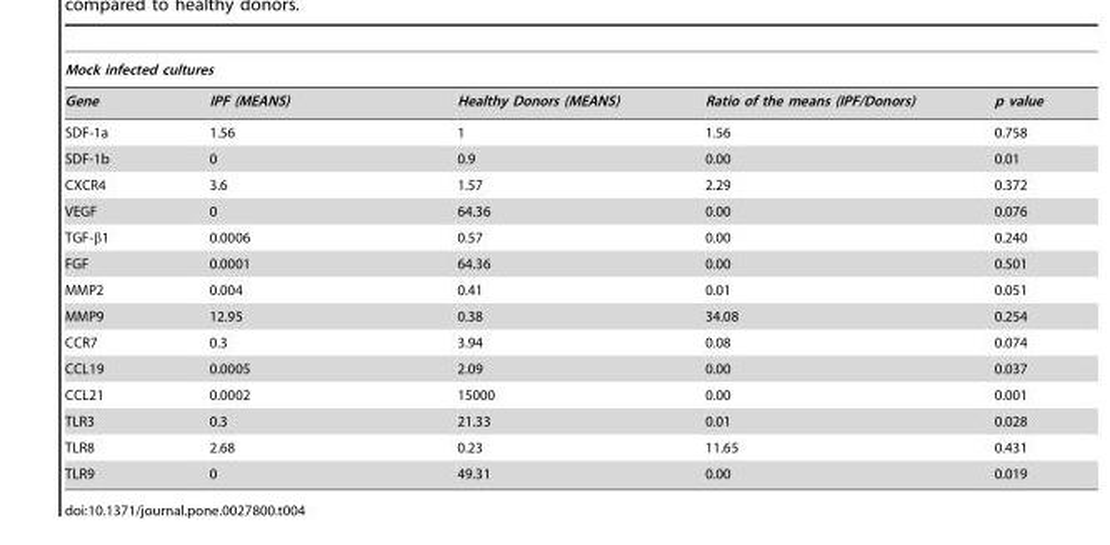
<table><thead><tr><td colspan="5">Mock infected cultures</td></tr><tr><td>Gene</td><td>IPF (MEANS)</td><td>Healthy Donors (MEANS)</td><td>Ratio of the means (IPF/Donors)</td><td>p value</td></tr></thead><tbody><tr><td>SDF-1a</td><td>1.56</td><td>1</td><td>1.56</td><td>0.758</td></tr><tr><td>SDF-1b</td><td>0</td><td>0.9</td><td>0.00</td><td>0.01</td></tr><tr><td>CXCR4</td><td>3.6</td><td>1.57</td><td>2.29</td><td>0.372</td></tr><tr><td>VEGF</td><td>0</td><td>64.36</td><td>0.00</td><td>0.076</td></tr><tr><td>TGF-β1</td><td>0.0006</td><td>0.57</td><td>0.00</td><td>0.240</td></tr><tr><td>FGF</td><td>0.0001</td><td>64.36</td><td>0.00</td><td>0.501</td></tr><tr><td>MMP2</td><td>0.004</td><td>0.41</td><td>0.01</td><td>0.051</td></tr><tr><td>MMP9</td><td>12.95</td><td>0.38</td><td>34.08</td><td>0.254</td></tr><tr><td>CCR7</td><td>0.3</td><td>3.94</td><td>0.08</td><td>0.074</td></tr><tr><td>CCL19</td><td>0.0005</td><td>2.09</td><td>0.00</td><td>0.037</td></tr><tr><td>CCL21</td><td>0.0002</td><td>15000</td><td>0.00</td><td>0.001</td></tr><tr><td>TLR3</td><td>0.3</td><td>21.33</td><td>0.01</td><td>0.028</td></tr><tr><td>TLR8</td><td>2.68</td><td>0.23</td><td>11.65</td><td>0.431</td></tr><tr><td>TLR9</td><td>0</td><td>49.31</td><td>0.00</td><td>0.019</td></tr></tbody></table>